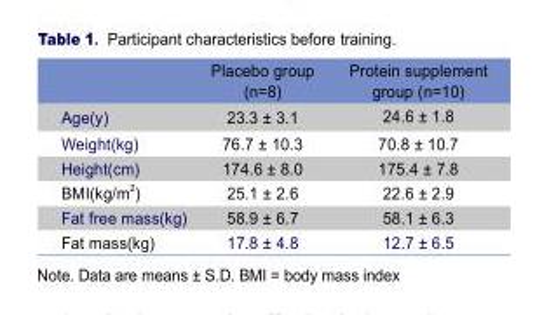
<table><thead><tr><td></td><td>Placebo group (n=8)</td><td>Protein supplement group (n=10)</td></tr></thead><tbody><tr><td>Age(y)</td><td>23.3 ± 3.1</td><td>24.6 ± 1.8</td></tr><tr><td>Weight(kg)</td><td>76.7 ± 10.3</td><td>70.8 ± 10.7</td></tr><tr><td>Height(cm)</td><td>174.6 ± 8.0</td><td>175.4 ± 7.8</td></tr><tr><td>BMI(kg/m <sup>2</sup>)</td><td>25.1 ± 2.6</td><td>22.6 ± 2.9</td></tr><tr><td>Fat free mass(kg)</td><td>58.9 ± 6.7</td><td>58.1 ± 6.3</td></tr><tr><td>Fat mass(kg)</td><td>17.8 ± 4.8</td><td>12.7 ± 6.5</td></tr></tbody></table>